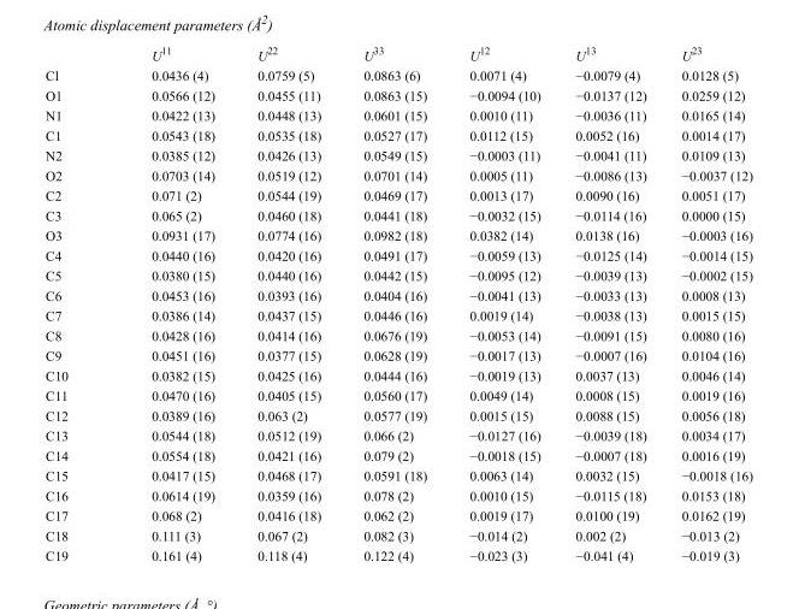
<table><thead><tr><td></td><td>U<sup>11</sup></td><td>U<sup>22</sup></td><td>U<sup>33</sup></td><td>U<sup>12</sup></td><td>U<sup>13</sup></td><td>U<sup>23</sup></td></tr></thead><tbody><tr><td>Cl</td><td>0.0436 (4)</td><td>0.0759 (5)</td><td>0.0863 (6)</td><td>0.0071 (4)</td><td>−0.0079 (4)</td><td>0.0128 (5)</td></tr><tr><td>O1</td><td>0.0566 (12)</td><td>0.0455 (11)</td><td>0.0863 (15)</td><td>−0.0094 (10)</td><td>−0.0137 (12)</td><td>0.0259 (12)</td></tr><tr><td>N1</td><td>0.0422 (13)</td><td>0.0448 (13)</td><td>0.0601 (15)</td><td>0.0010 (11)</td><td>−0.0036 (11)</td><td>0.0165 (14)</td></tr><tr><td>C1</td><td>0.0543 (18)</td><td>0.0535 (18)</td><td>0.0527 (17)</td><td>0.0112 (15)</td><td>0.0052 (16)</td><td>0.0014 (17)</td></tr><tr><td>N2</td><td>0.0385 (12)</td><td>0.0426 (13)</td><td>0.0549 (15)</td><td>−0.0003 (11)</td><td>−0.0041 (11)</td><td>0.0109 (13)</td></tr><tr><td>O2</td><td>0.0703 (14)</td><td>0.0519 (12)</td><td>0.0701 (14)</td><td>0.0005 (11)</td><td>−0.0086 (13)</td><td>−0.0037 (12)</td></tr><tr><td>C2</td><td>0.071 (2)</td><td>0.0544 (19)</td><td>0.0469 (17)</td><td>0.0013 (17)</td><td>0.0090 (16)</td><td>0.0051 (17)</td></tr><tr><td>C3</td><td>0.065 (2)</td><td>0.0460 (18)</td><td>0.0441 (18)</td><td>−0.0032 (15)</td><td>−0.0114 (16)</td><td>0.0000 (15)</td></tr><tr><td>O3</td><td>0.0931 (17)</td><td>0.0774 (16)</td><td>0.0982 (18)</td><td>0.0382 (14)</td><td>0.0138 (16)</td><td>−0.0003 (16)</td></tr><tr><td>C4</td><td>0.0440 (16)</td><td>0.0420 (16)</td><td>0.0491 (17)</td><td>−0.0059 (13)</td><td>−0.0125 (14)</td><td>−0.0014 (15)</td></tr><tr><td>C5</td><td>0.0380 (15)</td><td>0.0440 (16)</td><td>0.0442 (15)</td><td>−0.0095 (12)</td><td>−0.0039 (13)</td><td>−0.0002 (15)</td></tr><tr><td>C6</td><td>0.0453 (16)</td><td>0.0393 (16)</td><td>0.0404 (16)</td><td>−0.0041 (13)</td><td>−0.0033 (13)</td><td>0.0008 (13)</td></tr><tr><td>C7</td><td>0.0386 (14)</td><td>0.0437 (15)</td><td>0.0446 (16)</td><td>0.0019 (14)</td><td>−0.0038 (13)</td><td>0.0015 (15)</td></tr><tr><td>C8</td><td>0.0428 (16)</td><td>0.0414 (16)</td><td>0.0676 (19)</td><td>−0.0053 (14)</td><td>−0.0091 (15)</td><td>0.0080 (16)</td></tr><tr><td>C9</td><td>0.0451 (16)</td><td>0.0377 (15)</td><td>0.0628 (19)</td><td>−0.0017 (13)</td><td>−0.0007 (16)</td><td>0.0104 (16)</td></tr><tr><td>C10</td><td>0.0382 (15)</td><td>0.0425 (16)</td><td>0.0444 (16)</td><td>−0.0019 (13)</td><td>0.0037 (13)</td><td>0.0046 (14)</td></tr><tr><td>C11</td><td>0.0470 (16)</td><td>0.0405 (15)</td><td>0.0560 (17)</td><td>0.0049 (14)</td><td>0.0008 (15)</td><td>0.0019 (16)</td></tr><tr><td>C12</td><td>0.0389 (16)</td><td>0.063 (2)</td><td>0.0577 (19)</td><td>0.0015 (15)</td><td>0.0088 (15)</td><td>0.0056 (18)</td></tr><tr><td>C13</td><td>0.0544 (18)</td><td>0.0512 (19)</td><td>0.066 (2)</td><td>−0.0127 (16)</td><td>−0.0039 (18)</td><td>0.0034 (17)</td></tr><tr><td>C14</td><td>0.0554 (18)</td><td>0.0421 (16)</td><td>0.079 (2)</td><td>−0.0018 (15)</td><td>−0.0007 (18)</td><td>0.0016 (19)</td></tr><tr><td>C15</td><td>0.0417 (15)</td><td>0.0468 (17)</td><td>0.0591 (18)</td><td>0.0063 (14)</td><td>0.0032 (15)</td><td>−0.0018 (16)</td></tr><tr><td>C16</td><td>0.0614 (19)</td><td>0.0359 (16)</td><td>0.078 (2)</td><td>0.0010 (15)</td><td>−0.0115 (18)</td><td>0.0153 (18)</td></tr><tr><td>C17</td><td>0.068 (2)</td><td>0.0416 (18)</td><td>0.062 (2)</td><td>0.0019 (17)</td><td>0.0100 (19)</td><td>0.0162 (19)</td></tr><tr><td>C18</td><td>0.111 (3)</td><td>0.067 (2)</td><td>0.082 (3)</td><td>−0.014 (2)</td><td>0.002 (2)</td><td>−0.013 (2)</td></tr><tr><td>C19</td><td>0.161 (4)</td><td>0.118 (4)</td><td>0.122 (4)</td><td>−0.023 (3)</td><td>−0.041 (4)</td><td>−0.019 (3)</td></tr></tbody></table>